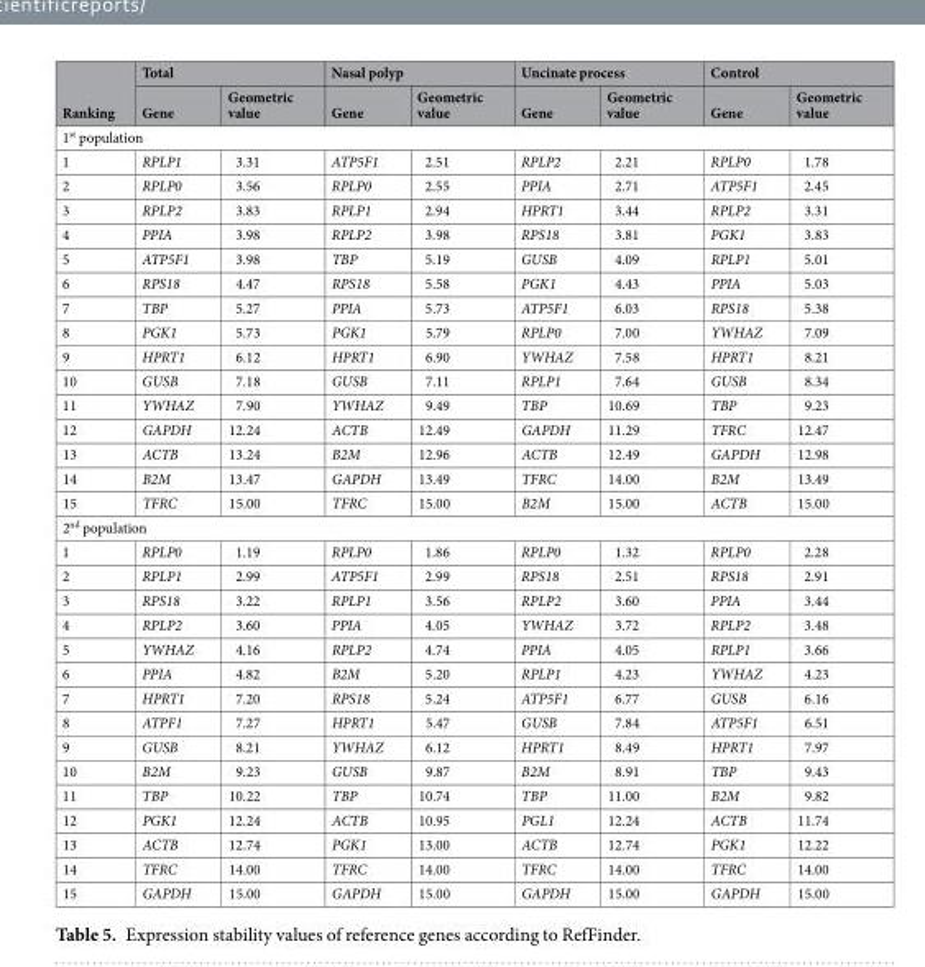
<table><thead><tr><td rowspan="2">Ranking</td><td colspan="2">Total</td><td colspan="2">Nasal polyp</td><td colspan="2">Uncinate process</td><td colspan="2">Control</td></tr><tr><td>Gene</td><td>Geometric value</td><td>Gene</td><td>Geometric value</td><td>Gene</td><td>Geometric value</td><td>Gene</td><td>Geometric value</td></tr></thead><tbody><tr><td colspan="9">1<sup>st</sup> population</td></tr><tr><td>1</td><td>RPLP1</td><td>3.31</td><td>ATP5F1</td><td>2.51</td><td>RPLP2</td><td>2.21</td><td>RPLP0</td><td>1.78</td></tr><tr><td>2</td><td>RPLP0</td><td>3.56</td><td>RPLP0</td><td>2.55</td><td>PPIA</td><td>2.71</td><td>ATP5F1</td><td>2.45</td></tr><tr><td>3</td><td>RPLP2</td><td>3.83</td><td>RPLP1</td><td>2.94</td><td>HPRT1</td><td>3.44</td><td>RPLP2</td><td>3.31</td></tr><tr><td>4</td><td>PPIA</td><td>3.98</td><td>RPLP2</td><td>3.98</td><td>RPS18</td><td>3.81</td><td>PGK1</td><td>3.83</td></tr><tr><td>5</td><td>ATP5F1</td><td>3.98</td><td>TBP</td><td>5.19</td><td>GUSB</td><td>4.09</td><td>RPLP1</td><td>5.01</td></tr><tr><td>6</td><td>RPS18</td><td>4.47</td><td>RPS18</td><td>5.58</td><td>PGK1</td><td>4.43</td><td>PPIA</td><td>5.03</td></tr><tr><td>7</td><td>TBP</td><td>5.27</td><td>PPIA</td><td>5.73</td><td>ATP5F1</td><td>6.03</td><td>RPS18</td><td>5.38</td></tr><tr><td>8</td><td>PGK1</td><td>5.73</td><td>PGK1</td><td>5.79</td><td>RPLP0</td><td>7.00</td><td>YWHAZ</td><td>7.09</td></tr><tr><td>9</td><td>HPRT1</td><td>6.12</td><td>HPRT1</td><td>6.90</td><td>YWHAZ</td><td>7.58</td><td>HPRT1</td><td>8.21</td></tr><tr><td>10</td><td>GUSB</td><td>7.18</td><td>GUSB</td><td>7.11</td><td>RPLP1</td><td>7.64</td><td>GUSB</td><td>8.34</td></tr><tr><td>11</td><td>YWHAZ</td><td>7.90</td><td>YWHAZ</td><td>9.49</td><td>TBP</td><td>10.69</td><td>TBP</td><td>9.23</td></tr><tr><td>12</td><td>GAPDH</td><td>12.24</td><td>ACTB</td><td>12.49</td><td>GAPDH</td><td>11.29</td><td>TFRC</td><td>12.47</td></tr><tr><td>13</td><td>ACTB</td><td>13.24</td><td>B2M</td><td>12.96</td><td>ACTB</td><td>12.49</td><td>GAPDH</td><td>12.98</td></tr><tr><td>14</td><td>B2M</td><td>13.47</td><td>GAPDH</td><td>13.49</td><td>TFRC</td><td>14.00</td><td>B2M</td><td>13.49</td></tr><tr><td>15</td><td>TFRC</td><td>15.00</td><td>TFRC</td><td>15.00</td><td>B2M</td><td>15.00</td><td>ACTB</td><td>15.00</td></tr><tr><td colspan="9">2<sup>nd</sup> population</td></tr><tr><td>1</td><td>RPLP0</td><td>1.19</td><td>RPLP0</td><td>1.86</td><td>RPLP0</td><td>1.32</td><td>RPLP0</td><td>2.28</td></tr><tr><td>2</td><td>RPLP1</td><td>2.99</td><td>ATP5F1</td><td>2.99</td><td>RPS18</td><td>2.51</td><td>RPS18</td><td>2.91</td></tr><tr><td>3</td><td>RPS18</td><td>3.22</td><td>RPLP1</td><td>3.56</td><td>RPLP2</td><td>3.60</td><td>PPIA</td><td>3.44</td></tr><tr><td>4</td><td>RPLP2</td><td>3.60</td><td>PPIA</td><td>4.05</td><td>YWHAZ</td><td>3.72</td><td>RPLP2</td><td>3.48</td></tr><tr><td>5</td><td>YWHAZ</td><td>4.16</td><td>RPLP2</td><td>4.74</td><td>PPIA</td><td>4.05</td><td>RPLP1</td><td>3.66</td></tr><tr><td>6</td><td>PPIA</td><td>4.82</td><td>B2M</td><td>5.20</td><td>RPLP1</td><td>4.23</td><td>YWHAZ</td><td>4.23</td></tr><tr><td>7</td><td>HPRT1</td><td>7.20</td><td>RPS18</td><td>5.24</td><td>ATP5F1</td><td>6.77</td><td>GUSB</td><td>6.16</td></tr><tr><td>8</td><td>ATPF1</td><td>7.27</td><td>HPRT1</td><td>5.47</td><td>GUSB</td><td>7.84</td><td>ATP5F1</td><td>6.51</td></tr><tr><td>9</td><td>GUSB</td><td>8.21</td><td>YWHAZ</td><td>6.12</td><td>HPRT1</td><td>8.49</td><td>HPRT1</td><td>7.97</td></tr><tr><td>10</td><td>B2M</td><td>9.23</td><td>GUSB</td><td>9.87</td><td>B2M</td><td>8.91</td><td>TBP</td><td>9.43</td></tr><tr><td>11</td><td>TBP</td><td>10.22</td><td>TBP</td><td>10.74</td><td>TBP</td><td>11.00</td><td>B2M</td><td>9.82</td></tr><tr><td>12</td><td>PGK1</td><td>12.24</td><td>ACTB</td><td>10.95</td><td>PGL1</td><td>12.24</td><td>ACTB</td><td>11.74</td></tr><tr><td>13</td><td>ACTB</td><td>12.74</td><td>PGK1</td><td>13.00</td><td>ACTB</td><td>12.74</td><td>PGK1</td><td>12.22</td></tr><tr><td>14</td><td>TFRC</td><td>14.00</td><td>TFRC</td><td>14.00</td><td>TFRC</td><td>14.00</td><td>TFRC</td><td>14.00</td></tr><tr><td>15</td><td>GAPDH</td><td>15.00</td><td>GAPDH</td><td>15.00</td><td>GAPDH</td><td>15.00</td><td>GAPDH</td><td>15.00</td></tr></tbody></table>